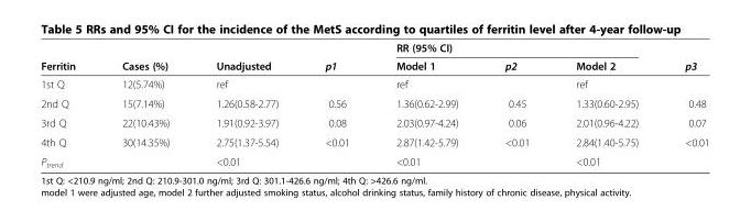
<table><thead><tr><td rowspan="2">Ferritin</td><td rowspan="2">Cases (%)</td><td rowspan="2">Unadjusted</td><td rowspan="2">p1</td><td colspan="3">RR (95% CI)</td><td rowspan="2">p3</td></tr><tr><td>Model 1</td><td>p2</td><td>Model 2</td></tr></thead><tbody><tr><td>1st Q</td><td>12(5.74%)</td><td>ref</td><td></td><td>ref</td><td></td><td>ref</td><td></td></tr><tr><td>2nd Q</td><td>15(7.14%)</td><td>1.26(0.58-2.77)</td><td>0.56</td><td>1.36(0.62-2.99)</td><td>0.45</td><td>1.33(0.60-2.95)</td><td>0.48</td></tr><tr><td>3rd Q</td><td>22(10.43%)</td><td>1.91(0.92-3.97)</td><td>0.08</td><td>2.03(0.97-4.24)</td><td>0.06</td><td>2.01(0.96-4.22)</td><td>0.07</td></tr><tr><td>4th Q</td><td>30(14.35%)</td><td>2.75(1.37-5.54)</td><td>&lt;0.01</td><td>2.87(1.42-5.79)</td><td>&lt;0.01</td><td>2.84(1.40-5.75)</td><td>&lt;0.01</td></tr><tr><td colspan="2">P<sub>trend</sub></td><td>&lt;0.01</td><td></td><td>&lt;0.01</td><td></td><td>&lt;0.01</td><td></td></tr></tbody></table>